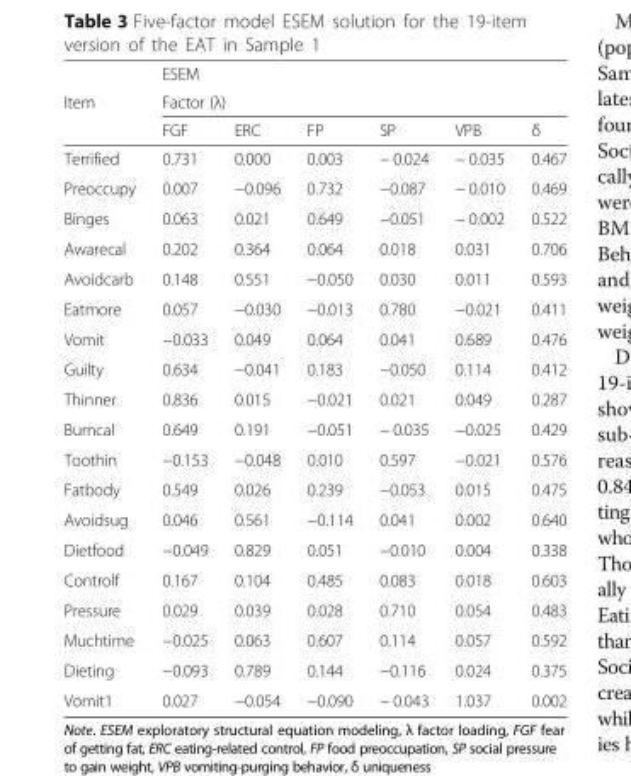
<table><thead><tr><td rowspan="3">Item</td><td rowspan="2" colspan="6">ESEM Factor (λ)</td></tr><tr></tr><tr><td>FGF</td><td>ERC</td><td>FP</td><td>SP</td><td>VPB</td><td>δ</td></tr></thead><tbody><tr><td>Terrified</td><td>0.731</td><td>0.000</td><td>0.003</td><td>− 0.024</td><td>− 0.035</td><td>0.467</td></tr><tr><td>Preoccupy</td><td>0.007</td><td>−0.096</td><td>0.732</td><td>−0.087</td><td>− 0.010</td><td>0.469</td></tr><tr><td>Binges</td><td>0.063</td><td>0.021</td><td>0.649</td><td>−0.051</td><td>− 0.002</td><td>0.522</td></tr><tr><td>Awarecal</td><td>0.202</td><td>0.364</td><td>0.064</td><td>0.018</td><td>0.031</td><td>0.706</td></tr><tr><td>Avoidcarb</td><td>0.148</td><td>0.551</td><td>−0.050</td><td>0.030</td><td>0.011</td><td>0.593</td></tr><tr><td>Eatmore</td><td>0.057</td><td>−0.030</td><td>−0.013</td><td>0.780</td><td>−0.021</td><td>0.411</td></tr><tr><td>Vomit</td><td>−0.033</td><td>0.049</td><td>0.064</td><td>0.041</td><td>0.689</td><td>0.476</td></tr><tr><td>Guilty</td><td>0.634</td><td>−0.041</td><td>0.183</td><td>−0.050</td><td>0.114</td><td>0.412</td></tr><tr><td>Thinner</td><td>0.836</td><td>0.015</td><td>−0.021</td><td>0.021</td><td>0.049</td><td>0.287</td></tr><tr><td>Burncal</td><td>0.649</td><td>0.191</td><td>−0.051</td><td>− 0.035</td><td>−0.025</td><td>0.429</td></tr><tr><td>Toothin</td><td>−0.153</td><td>−0.048</td><td>0.010</td><td>0.597</td><td>−0.021</td><td>0.576</td></tr><tr><td>Fatbody</td><td>0.549</td><td>0.026</td><td>0.239</td><td>−0.053</td><td>0.015</td><td>0.475</td></tr><tr><td>Avoidsug</td><td>0.046</td><td>0.561</td><td>−0.114</td><td>0.041</td><td>0.002</td><td>0.640</td></tr><tr><td>Dietfood</td><td>−0.049</td><td>0.829</td><td>0.051</td><td>−0.010</td><td>0.004</td><td>0.338</td></tr><tr><td>Controlf</td><td>0.167</td><td>0.104</td><td>0.485</td><td>0.083</td><td>0.018</td><td>0.603</td></tr><tr><td>Pressure</td><td>0.029</td><td>0.039</td><td>0.028</td><td>0.710</td><td>0.054</td><td>0.483</td></tr><tr><td>Muchtime</td><td>−0.025</td><td>0.063</td><td>0.607</td><td>0.114</td><td>0.057</td><td>0.592</td></tr><tr><td>Dieting</td><td>−0.093</td><td>0.789</td><td>0.144</td><td>−0.116</td><td>0.024</td><td>0.375</td></tr><tr><td>Vomit1</td><td>0.027</td><td>−0.054</td><td>−0.090</td><td>− 0.043</td><td>1.037</td><td>0.002</td></tr></tbody></table>